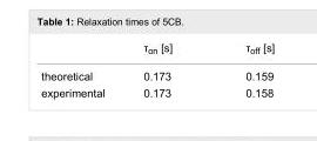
<table><thead><tr><td></td><td>τ<sub>on</sub> [s]</td><td>τ<sub>off</sub> [s]</td></tr></thead><tbody><tr><td>theoretical</td><td>0.173</td><td>0.159</td></tr><tr><td>experimental</td><td>0.173</td><td>0.158</td></tr></tbody></table>